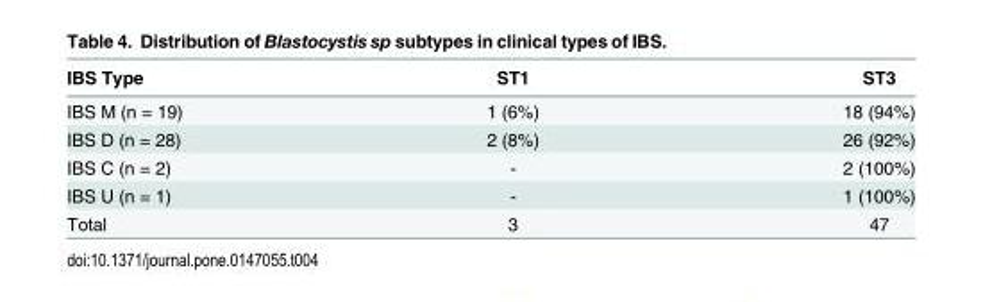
<table><thead><tr><td>IBS Type</td><td>ST1</td><td>ST3</td></tr></thead><tbody><tr><td>IBS M (n = 19)</td><td>1 (6%)</td><td>18 (94%)</td></tr><tr><td>IBS D (n = 28)</td><td>2 (8%)</td><td>26 (92%)</td></tr><tr><td>IBS C (n = 2)</td><td>-</td><td>2 (100%)</td></tr><tr><td>IBS U (n = 1)</td><td>-</td><td>1 (100%)</td></tr><tr><td>Total</td><td>3</td><td>47</td></tr></tbody></table>